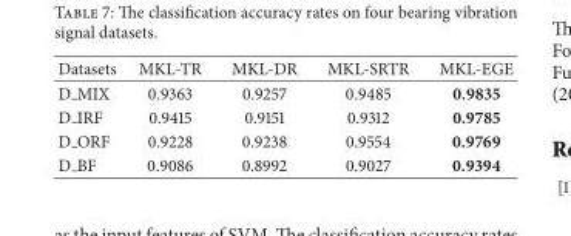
<table><thead><tr><td>Datasets</td><td>MKL-TR</td><td>MKL-DR</td><td>MKL-SRTR</td><td>MKL-EGE</td></tr></thead><tbody><tr><td>D MIX</td><td>0.9363</td><td>0.9257</td><td>0.9485</td><td>0.9835</td></tr><tr><td>D IRF</td><td>0.9415</td><td>0.9151</td><td>0.9312</td><td>0.9785</td></tr><tr><td>D ORF</td><td>0.9228</td><td>0.9238</td><td>0.9554</td><td>0.9769</td></tr><tr><td>D BF</td><td>0.9086</td><td>0.8992</td><td>0.9027</td><td>0.9394</td></tr></tbody></table>